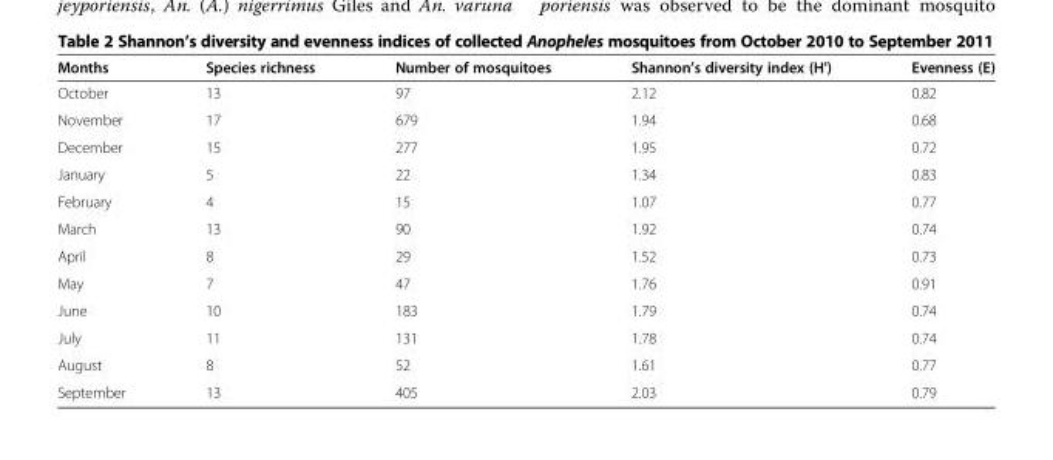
<table><thead><tr><td>Months</td><td>Species richness</td><td>Number of mosquitoes</td><td>Shannon’s diversity index (H&#x27;)</td><td>Evenness (E)</td></tr></thead><tbody><tr><td>October</td><td>13</td><td>97</td><td>2.12</td><td>0.82</td></tr><tr><td>November</td><td>17</td><td>679</td><td>1.94</td><td>0.68</td></tr><tr><td>December</td><td>15</td><td>277</td><td>1.95</td><td>0.72</td></tr><tr><td>January</td><td>5</td><td>22</td><td>1.34</td><td>0.83</td></tr><tr><td>February</td><td>4</td><td>15</td><td>1.07</td><td>0.77</td></tr><tr><td>March</td><td>13</td><td>90</td><td>1.92</td><td>0.74</td></tr><tr><td>April</td><td>8</td><td>29</td><td>1.52</td><td>0.73</td></tr><tr><td>May</td><td>7</td><td>47</td><td>1.76</td><td>0.91</td></tr><tr><td>June</td><td>10</td><td>183</td><td>1.79</td><td>0.74</td></tr><tr><td>July</td><td>11</td><td>131</td><td>1.78</td><td>0.74</td></tr><tr><td>August</td><td>8</td><td>52</td><td>1.61</td><td>0.77</td></tr><tr><td>September</td><td>13</td><td>405</td><td>2.03</td><td>0.79</td></tr></tbody></table>